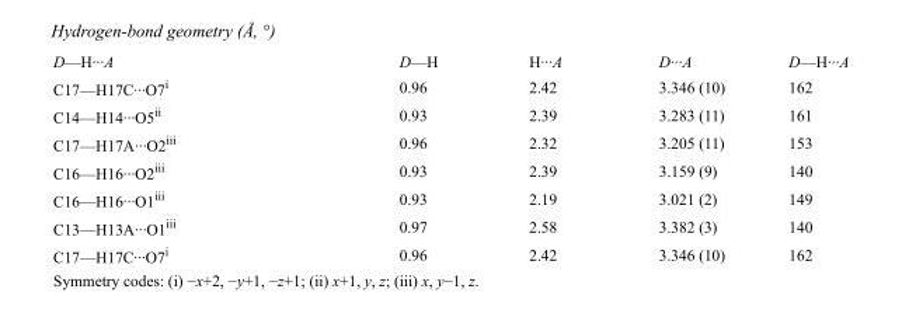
<table><tbody><tr><td>D—H···A</td><td>D—H</td><td>H···A</td><td>D···A</td><td>D—H···A</td></tr><tr><td>C17—H17C···O7<sup>i</sup></td><td>0.96</td><td>2.42</td><td>3.346 (10)</td><td>162</td></tr><tr><td>C14—H14···O5<sup>ii</sup></td><td>0.93</td><td>2.39</td><td>3.283 (11)</td><td>161</td></tr><tr><td>C17—H17A···O2<sup>iii</sup></td><td>0.96</td><td>2.32</td><td>3.205 (11)</td><td>153</td></tr><tr><td>C16—H16···O2<sup>iii</sup></td><td>0.93</td><td>2.39</td><td>3.159 (9)</td><td>140</td></tr><tr><td>C16—H16···O1<sup>iii</sup></td><td>0.93</td><td>2.19</td><td>3.021 (2)</td><td>149</td></tr><tr><td>C13—H13A···O1<sup>iii</sup></td><td>0.97</td><td>2.58</td><td>3.382 (3)</td><td>140</td></tr><tr><td>C17—H17C···O7<sup>i</sup></td><td>0.96</td><td>2.42</td><td>3.346 (10)</td><td>162</td></tr></tbody></table>